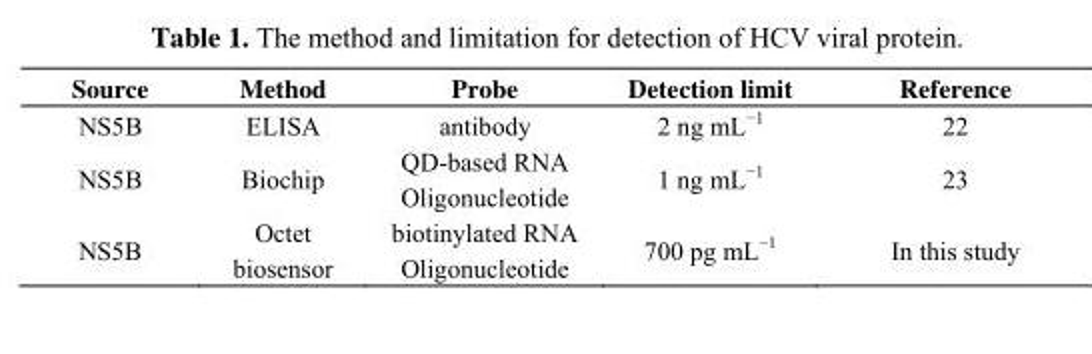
<table><thead><tr><td>Source</td><td>Method</td><td>Probe</td><td>Detection limit</td><td>Reference</td></tr></thead><tbody><tr><td>NS5B</td><td>ELISA</td><td>antibody</td><td>2 ng mL<sup>−1</sup></td><td>22</td></tr><tr><td>NS5B</td><td>Biochip</td><td>QD-based RNA Oligonucleotide</td><td>1 ng mL<sup>−1</sup></td><td>23</td></tr><tr><td>NS5B</td><td>Octet biosensor</td><td>biotinylated RNA Oligonucleotide</td><td>700 pg mL<sup>−1</sup></td><td>In this study</td></tr></tbody></table>